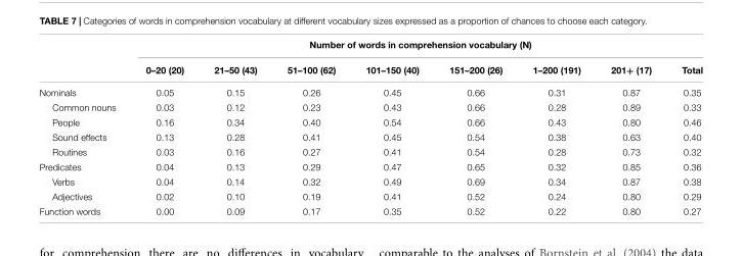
<table><thead><tr><td rowspan="2"></td><td colspan="8">Number of words in comprehension vocabulary (N)</td></tr><tr><td>0–20 (20)</td><td>21–50 (43)</td><td>51–100 (62)</td><td>101–150 (40)</td><td>151–200 (26)</td><td>1–200 (191)</td><td>201+ (17)</td><td>Total</td></tr></thead><tbody><tr><td>Nominals</td><td>0.05</td><td>0.15</td><td>0.26</td><td>0.45</td><td>0.66</td><td>0.31</td><td>0.87</td><td>0.35</td></tr><tr><td>Common nouns</td><td>0.03</td><td>0.12</td><td>0.23</td><td>0.43</td><td>0.66</td><td>0.28</td><td>0.89</td><td>0.33</td></tr><tr><td>People</td><td>0.16</td><td>0.34</td><td>0.40</td><td>0.54</td><td>0.66</td><td>0.43</td><td>0.80</td><td>0.46</td></tr><tr><td>Sound effects</td><td>0.13</td><td>0.28</td><td>0.41</td><td>0.45</td><td>0.54</td><td>0.38</td><td>0.63</td><td>0.40</td></tr><tr><td>Routines</td><td>0.03</td><td>0.16</td><td>0.27</td><td>0.41</td><td>0.54</td><td>0.28</td><td>0.73</td><td>0.32</td></tr><tr><td>Predicates</td><td>0.04</td><td>0.13</td><td>0.29</td><td>0.47</td><td>0.65</td><td>0.32</td><td>0.85</td><td>0.36</td></tr><tr><td>Verbs</td><td>0.04</td><td>0.14</td><td>0.32</td><td>0.49</td><td>0.69</td><td>0.34</td><td>0.87</td><td>0.38</td></tr><tr><td>Adjectives</td><td>0.02</td><td>0.10</td><td>0.19</td><td>0.41</td><td>0.52</td><td>0.24</td><td>0.80</td><td>0.29</td></tr><tr><td>Function words</td><td>0.00</td><td>0.09</td><td>0.17</td><td>0.35</td><td>0.52</td><td>0.22</td><td>0.80</td><td>0.27</td></tr></tbody></table>